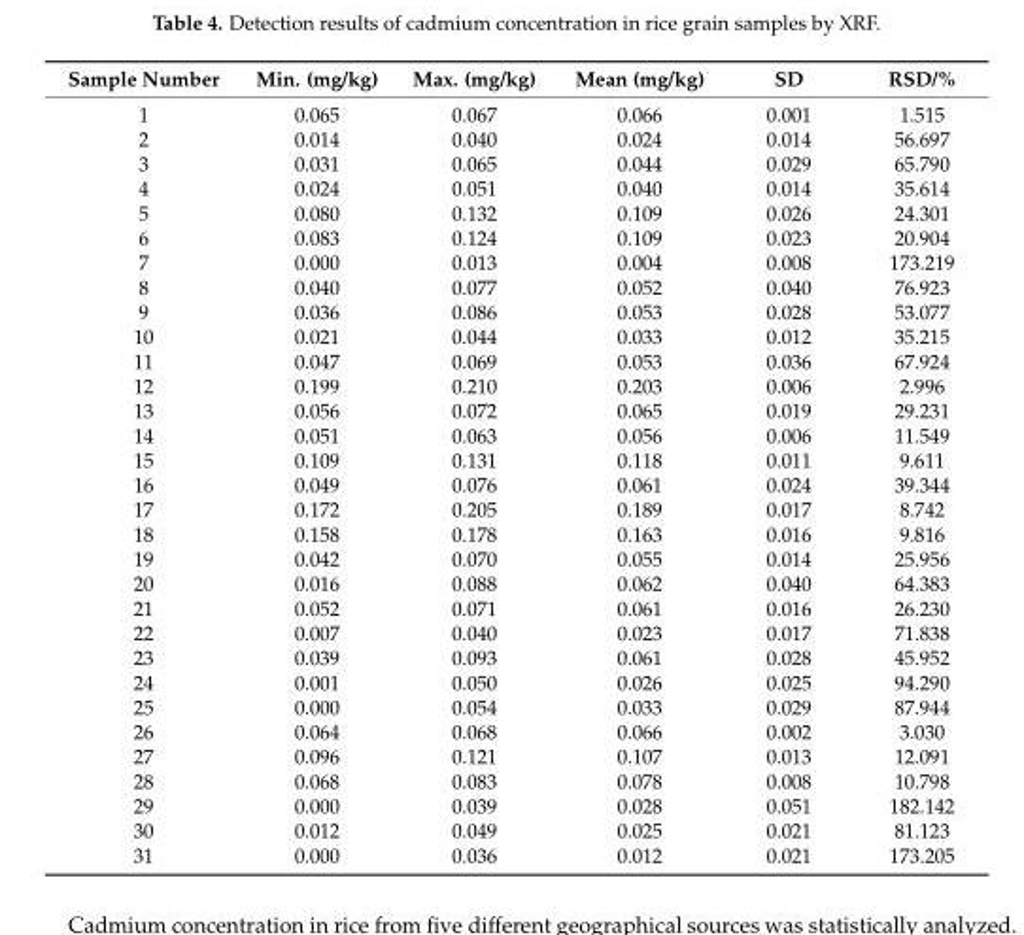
<table><thead><tr><td>Sample Number</td><td>Min. (mg/kg)</td><td>Max. (mg/kg)</td><td>Mean (mg/kg)</td><td>SD</td><td>RSD/%</td></tr></thead><tbody><tr><td>1</td><td>0.065</td><td>0.067</td><td>0.066</td><td>0.001</td><td>1.515</td></tr><tr><td>2</td><td>0.014</td><td>0.040</td><td>0.024</td><td>0.014</td><td>56.697</td></tr><tr><td>3</td><td>0.031</td><td>0.065</td><td>0.044</td><td>0.029</td><td>65.790</td></tr><tr><td>4</td><td>0.024</td><td>0.051</td><td>0.040</td><td>0.014</td><td>35.614</td></tr><tr><td>5</td><td>0.080</td><td>0.132</td><td>0.109</td><td>0.026</td><td>24.301</td></tr><tr><td>6</td><td>0.083</td><td>0.124</td><td>0.109</td><td>0.023</td><td>20.904</td></tr><tr><td>7</td><td>0.000</td><td>0.013</td><td>0.004</td><td>0.008</td><td>173.219</td></tr><tr><td>8</td><td>0.040</td><td>0.077</td><td>0.052</td><td>0.040</td><td>76.923</td></tr><tr><td>9</td><td>0.036</td><td>0.086</td><td>0.053</td><td>0.028</td><td>53.077</td></tr><tr><td>10</td><td>0.021</td><td>0.044</td><td>0.033</td><td>0.012</td><td>35.215</td></tr><tr><td>11</td><td>0.047</td><td>0.069</td><td>0.053</td><td>0.036</td><td>67.924</td></tr><tr><td>12</td><td>0.199</td><td>0.210</td><td>0.203</td><td>0.006</td><td>2.996</td></tr><tr><td>13</td><td>0.056</td><td>0.072</td><td>0.065</td><td>0.019</td><td>29.231</td></tr><tr><td>14</td><td>0.051</td><td>0.063</td><td>0.056</td><td>0.006</td><td>11.549</td></tr><tr><td>15</td><td>0.109</td><td>0.131</td><td>0.118</td><td>0.011</td><td>9.611</td></tr><tr><td>16</td><td>0.049</td><td>0.076</td><td>0.061</td><td>0.024</td><td>39.344</td></tr><tr><td>17</td><td>0.172</td><td>0.205</td><td>0.189</td><td>0.017</td><td>8.742</td></tr><tr><td>18</td><td>0.158</td><td>0.178</td><td>0.163</td><td>0.016</td><td>9.816</td></tr><tr><td>19</td><td>0.042</td><td>0.070</td><td>0.055</td><td>0.014</td><td>25.956</td></tr><tr><td>20</td><td>0.016</td><td>0.088</td><td>0.062</td><td>0.040</td><td>64.383</td></tr><tr><td>21</td><td>0.052</td><td>0.071</td><td>0.061</td><td>0.016</td><td>26.230</td></tr><tr><td>22</td><td>0.007</td><td>0.040</td><td>0.023</td><td>0.017</td><td>71.838</td></tr><tr><td>23</td><td>0.039</td><td>0.093</td><td>0.061</td><td>0.028</td><td>45.952</td></tr><tr><td>24</td><td>0.001</td><td>0.050</td><td>0.026</td><td>0.025</td><td>94.290</td></tr><tr><td>25</td><td>0.000</td><td>0.054</td><td>0.033</td><td>0.029</td><td>87.944</td></tr><tr><td>26</td><td>0.064</td><td>0.068</td><td>0.066</td><td>0.002</td><td>3.030</td></tr><tr><td>27</td><td>0.096</td><td>0.121</td><td>0.107</td><td>0.013</td><td>12.091</td></tr><tr><td>28</td><td>0.068</td><td>0.083</td><td>0.078</td><td>0.008</td><td>10.798</td></tr><tr><td>29</td><td>0.000</td><td>0.039</td><td>0.028</td><td>0.051</td><td>182.142</td></tr><tr><td>30</td><td>0.012</td><td>0.049</td><td>0.025</td><td>0.021</td><td>81.123</td></tr><tr><td>31</td><td>0.000</td><td>0.036</td><td>0.012</td><td>0.021</td><td>173.205</td></tr></tbody></table>